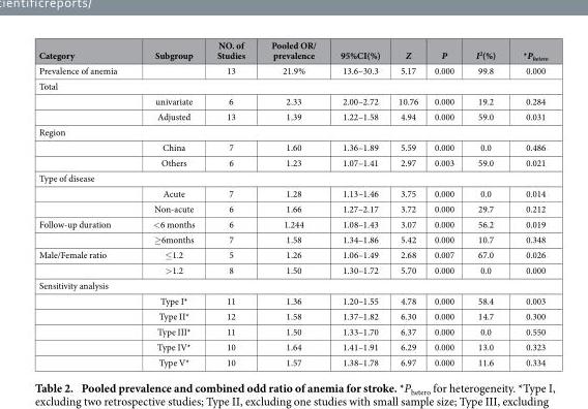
<table><thead><tr><td>Category</td><td>Subgroup</td><td>NO. of Studies</td><td>Pooled OR/ prevalence</td><td>95%CI(%)</td><td>Z</td><td>P</td><td>I<sup>2</sup>(%)</td><td>*P<sub>hetero</sub></td></tr></thead><tbody><tr><td>Prevalence of anemia</td><td></td><td>13</td><td>21.9%</td><td>13.6–30.3</td><td>5.17</td><td>0.000</td><td>99.8</td><td>0.000</td></tr><tr><td colspan="9">Total</td></tr><tr><td></td><td>univariate</td><td>6</td><td>2.33</td><td>2.00–2.72</td><td>10.76</td><td>0.000</td><td>19.2</td><td>0.284</td></tr><tr><td></td><td>Adjusted</td><td>13</td><td>1.39</td><td>1.22–1.58</td><td>4.94</td><td>0.000</td><td>59.0</td><td>0.031</td></tr><tr><td colspan="9">Region</td></tr><tr><td></td><td>China</td><td>7</td><td>1.60</td><td>1.36–1.89</td><td>5.59</td><td>0.000</td><td>0.0</td><td>0.486</td></tr><tr><td></td><td>Others</td><td>6</td><td>1.23</td><td>1.07–1.41</td><td>2.97</td><td>0.003</td><td>59.0</td><td>0.021</td></tr><tr><td colspan="9">Type of disease</td></tr><tr><td></td><td>Acute</td><td>7</td><td>1.28</td><td>1.13–1.46</td><td>3.75</td><td>0.000</td><td>0.0</td><td>0.014</td></tr><tr><td></td><td>Non-acute</td><td>6</td><td>1.66</td><td>1.27–2.17</td><td>3.72</td><td>0.000</td><td>29.7</td><td>0.212</td></tr><tr><td rowspan="2">Follow-up duration</td><td>&lt; 6 months</td><td>6</td><td>1.244</td><td>1.08–1.43</td><td>3.07</td><td>0.000</td><td>56.2</td><td>0.019</td></tr><tr><td>≥ 6months</td><td>7</td><td>1.58</td><td>1.34–1.86</td><td>5.42</td><td>0.000</td><td>10.7</td><td>0.348</td></tr><tr><td rowspan="2">Male/Female ratio</td><td>≤ 1.2</td><td>5</td><td>1.26</td><td>1.06–1.49</td><td>2.68</td><td>0.007</td><td>67.0</td><td>0.026</td></tr><tr><td>&gt; 1.2</td><td>8</td><td>1.50</td><td>1.30–1.72</td><td>5.70</td><td>0.000</td><td>0.0</td><td>0.000</td></tr><tr><td colspan="9">Sensitivity analysis</td></tr><tr><td></td><td>Type I*</td><td>11</td><td>1.36</td><td>1.20–1.55</td><td>4.78</td><td>0.000</td><td>58.4</td><td>0.003</td></tr><tr><td></td><td>Type II*</td><td>12</td><td>1.58</td><td>1.37–1.82</td><td>6.30</td><td>0.000</td><td>14.7</td><td>0.300</td></tr><tr><td></td><td>Type III*</td><td>11</td><td>1.50</td><td>1.33–1.70</td><td>6.37</td><td>0.000</td><td>0.0</td><td>0.550</td></tr><tr><td></td><td>Type IV*</td><td>10</td><td>1.64</td><td>1.41–1.91</td><td>6.29</td><td>0.000</td><td>13.0</td><td>0.323</td></tr><tr><td></td><td>Type V*</td><td>10</td><td>1.57</td><td>1.38–1.78</td><td>6.97</td><td>0.000</td><td>11.6</td><td>0.334</td></tr></tbody></table>